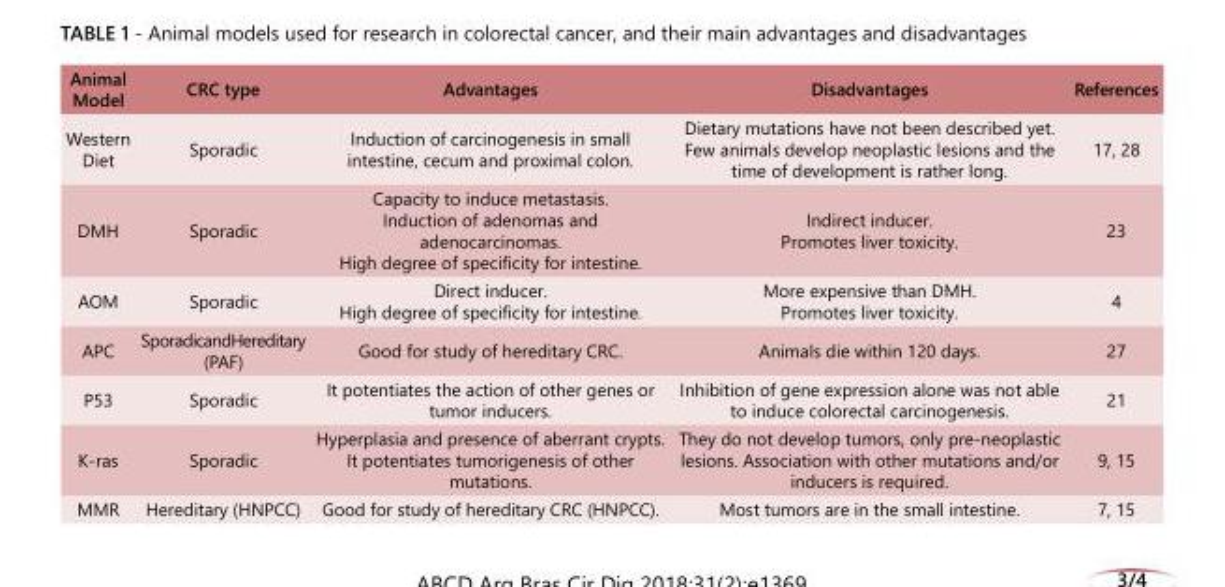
<table><tbody><tr><td>Animal Model</td><td>CRC type</td><td>Advantages</td><td>Disadvantages</td><td>References</td></tr><tr><td>Western Diet</td><td>Sporadic</td><td>Induction of carcinogenesis in small intestine, cecum and proximal colon.</td><td>Dietary mutations have not been described yet. Few animals develop neoplastic lesions and the time of development is rather long.</td><td>17, 28</td></tr><tr><td>DMH</td><td>Sporadic</td><td>Capacity to induce metastasis. Induction of adenomas and adenocarcinomas. High degree of specificity for intestine.</td><td>Indirect inducer. Promotes liver toxicity.</td><td>23</td></tr><tr><td>AOM</td><td>Sporadic</td><td>Direct inducer. High degree of specificity for intestine.</td><td>More expensive than DMH. Promotes liver toxicity.</td><td>4</td></tr><tr><td>APC</td><td>SporadicandHereditary (PAF)</td><td>Good for study of hereditary CRC.</td><td>Animals die within 120 days.</td><td>27</td></tr><tr><td>P53</td><td>Sporadic</td><td>It potentiates the action of other genes or tumor inducers.</td><td>Inhibition of gene expression alone was not able to induce colorectal carcinogenesis.</td><td>21</td></tr><tr><td>K-ras</td><td>Sporadic</td><td>Hyperplasia and presence of aberrant crypts. It potentiates tumorigenesis of other mutations.</td><td>They do not develop tumors, only pre-neoplastic lesions. Association with other mutations and/or inducers is required.</td><td>9, 15</td></tr><tr><td>MMR</td><td>Hereditary (HNPCC)</td><td>Good for study of hereditary CRC (HNPCC).</td><td>Most tumors are in the small intestine.</td><td>7, 15</td></tr></tbody></table>